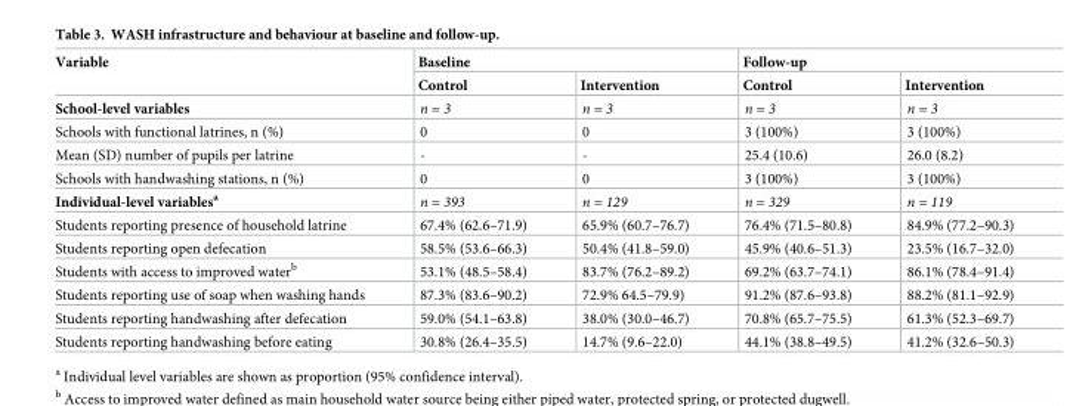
<table><thead><tr><td rowspan="2">Variable</td><td colspan="2">Baseline</td><td colspan="2">Follow-up</td></tr><tr><td>Control</td><td>Intervention</td><td>Control</td><td>Intervention</td></tr></thead><tbody><tr><td>School-level variables</td><td>n = 3</td><td>n = 3</td><td>n = 3</td><td>n = 3</td></tr><tr><td>Schools with functional latrines, n (%)</td><td>0</td><td>0</td><td>3 (100%)</td><td>3 (100%)</td></tr><tr><td>Mean (SD) number of pupils per latrine</td><td>-</td><td>-</td><td>25.4 (10.6)</td><td>26.0 (8.2)</td></tr><tr><td>Schools with handwashing stations, n (%)</td><td>0</td><td>0</td><td>3 (100%)</td><td>3 (100%)</td></tr><tr><td>Individual-level variables<sup>a</sup></td><td>n = 393</td><td>n = 129</td><td>n = 329</td><td>n = 119</td></tr><tr><td>Students reporting presence of household latrine</td><td>67.4% (62.6–71.9)</td><td>65.9% (60.7–76.7)</td><td>76.4% (71.5–80.8)</td><td>84.9% (77.2–90.3)</td></tr><tr><td>Students reporting open defecation</td><td>58.5% (53.6–66.3)</td><td>50.4% (41.8–59.0)</td><td>45.9% (40.6–51.3)</td><td>23.5% (16.7–32.0)</td></tr><tr><td>Students with access to improved water<sup>b</sup></td><td>53.1% (48.5–58.4)</td><td>83.7% (76.2–89.2)</td><td>69.2% (63.7–74.1)</td><td>86.1% (78.4–91.4)</td></tr><tr><td>Students reporting use of soap when washing hands</td><td>87.3% (83.6–90.2)</td><td>72.9% 64.5–79.9)</td><td>91.2% (87.6–93.8)</td><td>88.2% (81.1–92.9)</td></tr><tr><td>Students reporting handwashing after defecation</td><td>59.0% (54.1–63.8)</td><td>38.0% (30.0–46.7)</td><td>70.8% (65.7–75.5)</td><td>61.3% (52.3–69.7)</td></tr><tr><td>Students reporting handwashing before eating</td><td>30.8% (26.4–35.5)</td><td>14.7% (9.6–22.0)</td><td>44.1% (38.8–49.5)</td><td>41.2% (32.6–50.3)</td></tr></tbody></table>